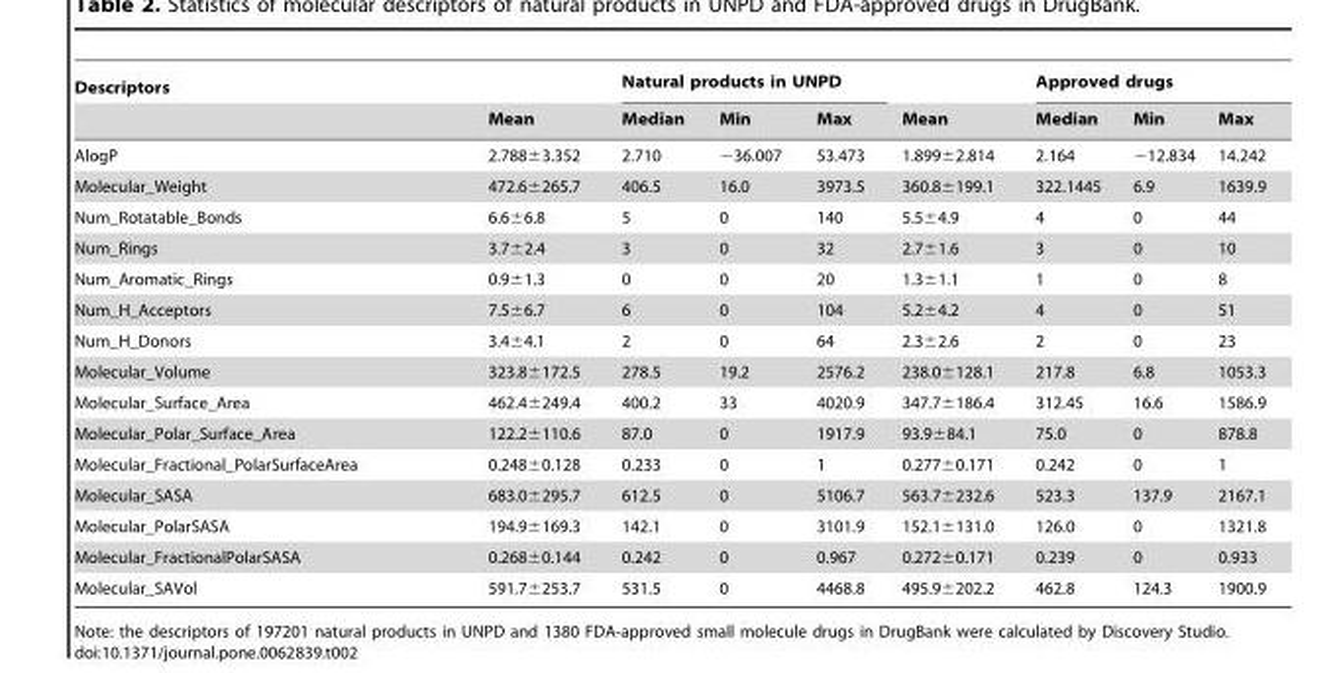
<table><thead><tr><td rowspan="2">Descriptors</td><td rowspan="2">Mean</td><td colspan="3">Natural products in UNPD</td><td rowspan="2">Mean</td><td colspan="3">Approved drugs</td></tr><tr><td>Median</td><td>Min</td><td>Max</td><td>Median</td><td>Min</td><td>Max</td></tr></thead><tbody><tr><td>AlogP</td><td>2.788±3.352</td><td>2.710</td><td>−36.007</td><td>53.473</td><td>1.899±2.814</td><td>2.164</td><td>−12.834</td><td>14.242</td></tr><tr><td>Molecular_Weight</td><td>472.6±265.7</td><td>406.5</td><td>16.0</td><td>3973.5</td><td>360.8±199.1</td><td>322.1445</td><td>6.9</td><td>1639.9</td></tr><tr><td>Num_Rotatable_Bonds</td><td>6.6±6.8</td><td>5</td><td>0</td><td>140</td><td>5.5±4.9</td><td>4</td><td>0</td><td>44</td></tr><tr><td>Num_Rings</td><td>3.7±2.4</td><td>3</td><td>0</td><td>32</td><td>2.7±1.6</td><td>3</td><td>0</td><td>10</td></tr><tr><td>Num_Aromatic_Rings</td><td>0.9±1.3</td><td>0</td><td>0</td><td>20</td><td>1.3±1.1</td><td>1</td><td>0</td><td>8</td></tr><tr><td>Num_H_Acceptors</td><td>7.5±6.7</td><td>6</td><td>0</td><td>104</td><td>5.2±4.2</td><td>4</td><td>0</td><td>51</td></tr><tr><td>Num_H_Donors</td><td>3.4±4.1</td><td>2</td><td>0</td><td>64</td><td>2.3±2.6</td><td>2</td><td>0</td><td>23</td></tr><tr><td>Molecular_Volume</td><td>323.8±172.5</td><td>278.5</td><td>19.2</td><td>2576.2</td><td>238.0±128.1</td><td>217.8</td><td>6.8</td><td>1053.3</td></tr><tr><td>Molecular_Surface_Area</td><td>462.4±249.4</td><td>400.2</td><td>33</td><td>4020.9</td><td>347.7±186.4</td><td>312.45</td><td>16.6</td><td>1586.9</td></tr><tr><td>Molecular_Polar_Surface_Area</td><td>122.2±110.6</td><td>87.0</td><td>0</td><td>1917.9</td><td>93.9±84.1</td><td>75.0</td><td>0</td><td>878.8</td></tr><tr><td>Molecular_Fractional_PolarSurfaceArea</td><td>0.248±0.128</td><td>0.233</td><td>0</td><td>1</td><td>0.277±0.171</td><td>0.242</td><td>0</td><td>1</td></tr><tr><td>Molecular_SASA</td><td>683.0±295.7</td><td>612.5</td><td>0</td><td>5106.7</td><td>563.7±232.6</td><td>523.3</td><td>137.9</td><td>2167.1</td></tr><tr><td>Molecular_PolarSASA</td><td>194.9±169.3</td><td>142.1</td><td>0</td><td>3101.9</td><td>152.1±131.0</td><td>126.0</td><td>0</td><td>1321.8</td></tr><tr><td>Molecular_FractionalPolarSASA</td><td>0.268±0.144</td><td>0.242</td><td>0</td><td>0.967</td><td>0.272±0.171</td><td>0.239</td><td>0</td><td>0.933</td></tr><tr><td>Molecular_SAVol</td><td>591.7±253.7</td><td>531.5</td><td>0</td><td>4468.8</td><td>495.9±202.2</td><td>462.8</td><td>124.3</td><td>1900.9</td></tr></tbody></table>